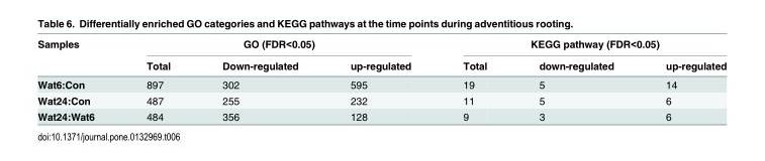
<table><thead><tr><td rowspan="2">Samples</td><td colspan="3">GO (FDR&lt;0.05)</td><td colspan="3">KEGG pathway (FDR&lt;0.05)</td></tr><tr><td>Total</td><td>Down-regulated</td><td>up-regulated</td><td>Total</td><td>down-regulated</td><td>up-regulated</td></tr></thead><tbody><tr><td>Wat6:Con</td><td>897</td><td>302</td><td>595</td><td>19</td><td>5</td><td>14</td></tr><tr><td>Wat24:Con</td><td>487</td><td>255</td><td>232</td><td>11</td><td>5</td><td>6</td></tr><tr><td>Wat24:Wat6</td><td>484</td><td>356</td><td>128</td><td>9</td><td>3</td><td>6</td></tr></tbody></table>